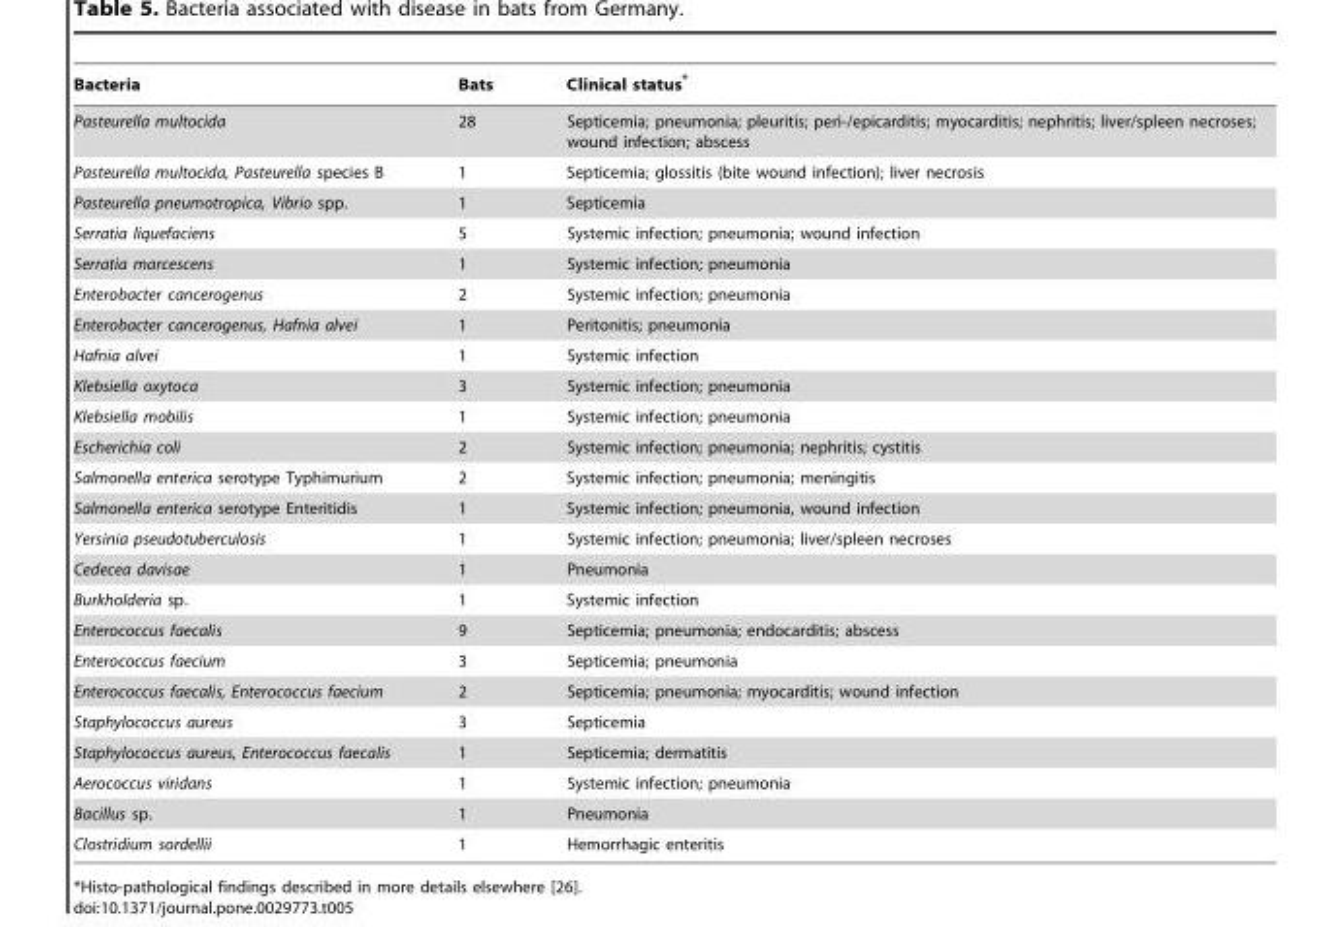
<table><thead><tr><td>Bacteria</td><td>Bats</td><td>Clinical status*</td></tr></thead><tbody><tr><td>Pasteurella multocida</td><td>28</td><td>Septicemia; pneumonia; pleuritis; peri-/epicarditis; myocarditis; nephritis; liver/spleen necroses; wound infection; abscess</td></tr><tr><td>Pasteurella multocida, Pasteurella species B</td><td>1</td><td>Septicemia; glossitis (bite wound infection); liver necrosis</td></tr><tr><td>Pasteurella pneumotropica, Vibrio spp.</td><td>1</td><td>Septicemia</td></tr><tr><td>Serratia liquefaciens</td><td>5</td><td>Systemic infection; pneumonia; wound infection</td></tr><tr><td>Serratia marcescens</td><td>1</td><td>Systemic infection; pneumonia</td></tr><tr><td>Enterobacter cancerogenus</td><td>2</td><td>Systemic infection; pneumonia</td></tr><tr><td>Enterobacter cancerogenus, Hafnia alvei</td><td>1</td><td>Peritonitis; pneumonia</td></tr><tr><td>Hafnia alvei</td><td>1</td><td>Systemic infection</td></tr><tr><td>Klebsiella oxytoca</td><td>3</td><td>Systemic infection; pneumonia</td></tr><tr><td>Klebsiella mobilis</td><td>1</td><td>Systemic infection; pneumonia</td></tr><tr><td>Escherichia coli</td><td>2</td><td>Systemic infection; pneumonia; nephritis; cystitis</td></tr><tr><td>Salmonella enterica serotype Typhimurium</td><td>2</td><td>Systemic infection; pneumonia; meningitis</td></tr><tr><td>Salmonella enterica serotype Enteritidis</td><td>1</td><td>Systemic infection; pneumonia, wound infection</td></tr><tr><td>Yersinia pseudotuberculosis</td><td>1</td><td>Systemic infection; pneumonia; liver/spleen necroses</td></tr><tr><td>Cedecea davisae</td><td>1</td><td>Pneumonia</td></tr><tr><td>Burkholderia sp.</td><td>1</td><td>Systemic infection</td></tr><tr><td>Enterococcus faecalis</td><td>9</td><td>Septicemia; pneumonia; endocarditis; abscess</td></tr><tr><td>Enterococcus faecium</td><td>3</td><td>Septicemia; pneumonia</td></tr><tr><td>Enterococcus faecalis, Enterococcus faecium</td><td>2</td><td>Septicemia; pneumonia; myocarditis; wound infection</td></tr><tr><td>Staphylococcus aureus</td><td>3</td><td>Septicemia</td></tr><tr><td>Staphylococcus aureus, Enterococcus faecalis</td><td>1</td><td>Septicemia; dermatitis</td></tr><tr><td>Aerococcus viridans</td><td>1</td><td>Systemic infection; pneumonia</td></tr><tr><td>Bacillus sp.</td><td>1</td><td>Pneumonia</td></tr><tr><td>Clostridium sordellii</td><td>1</td><td>Hemorrhagic enteritis</td></tr></tbody></table>